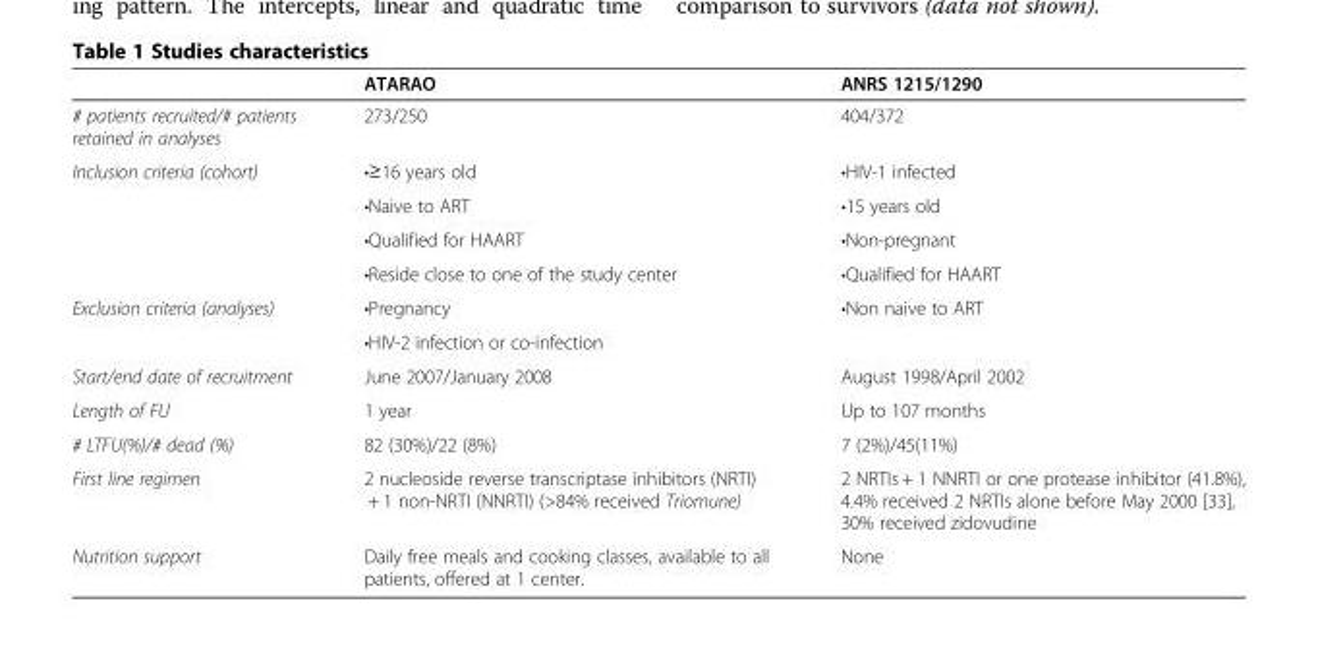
<table><thead><tr><td></td><td>ATARAO</td><td>ANRS 1215/1290</td></tr></thead><tbody><tr><td># patients recruited/# patients retained in analyses</td><td>273/250</td><td>404/372</td></tr><tr><td rowspan="4">Inclusion criteria (cohort)</td><td>•≥16 years old</td><td>•HIV-1 infected</td></tr><tr><td>•Naive to ART</td><td>•15 years old</td></tr><tr><td>•Qualified for HAART</td><td>•Non-pregnant</td></tr><tr><td>•Reside close to one of the study center</td><td>•Qualified for HAART</td></tr><tr><td rowspan="2">Exclusion criteria (analyses)</td><td>•Pregnancy</td><td>•Non naive to ART</td></tr><tr><td>•HIV-2 infection or co-infection</td><td></td></tr><tr><td>Start/end date of recruitment</td><td>June 2007/January 2008</td><td>August 1998/April 2002</td></tr><tr><td>Length of FU</td><td>1 year</td><td>Up to 107 months</td></tr><tr><td># LTFU(%)/# dead (%)</td><td>82 (30%)/22 (8%)</td><td>7 (2%)/45(11%)</td></tr><tr><td>First line regimen</td><td>2 nucleoside reverse transcriptase inhibitors (NRTI) + 1 non-NRTI (NNRTI) (&gt;84% received Triomune)</td><td>2 NRTIs + 1 NNRTI or one protease inhibitor (41.8%), 4.4% received 2 NRTIs alone before May 2000 [33], 30% received zidovudine</td></tr><tr><td>Nutrition support</td><td>Daily free meals and cooking classes, available to all patients, offered at 1 center.</td><td>None</td></tr></tbody></table>